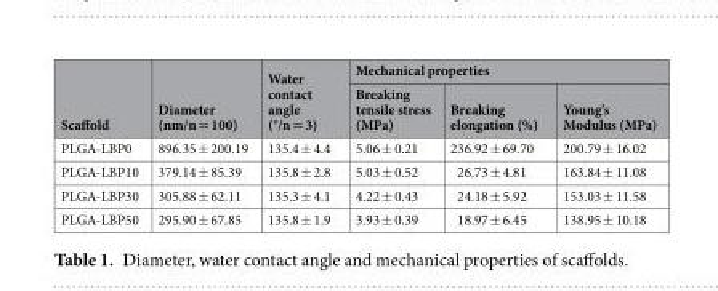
<table><thead><tr><td rowspan="2">Scaffold</td><td rowspan="2">Diameter (nm/n = 100)</td><td rowspan="2">Water contact angle (°/n = 3)</td><td colspan="3">Mechanical properties</td></tr><tr><td>Breaking tensile stress (MPa)</td><td>Breaking elongation (%)</td><td>Young’s Modulus (MPa)</td></tr></thead><tbody><tr><td>PLGA-LBP0</td><td>896.35 ± 200.19</td><td>135.4 ± 4.4</td><td>5.06 ± 0.21</td><td>236.92 ± 69.70</td><td>200.79 ± 16.02</td></tr><tr><td>PLGA-LBP10</td><td>379.14 ± 85.39</td><td>135.8 ± 2.8</td><td>5.03 ± 0.52</td><td>26.73 ± 4.81</td><td>163.84 ± 11.08</td></tr><tr><td>PLGA-LBP30</td><td>305.88 ± 62.11</td><td>135.3 ± 4.1</td><td>4.22 ± 0.43</td><td>24.18 ± 5.92</td><td>153.03 ± 11.58</td></tr><tr><td>PLGA-LBP50</td><td>295.90 ± 67.85</td><td>135.8 ± 1.9</td><td>3.93 ± 0.39</td><td>18.97 ± 6.45</td><td>138.95 ± 10.18</td></tr></tbody></table>